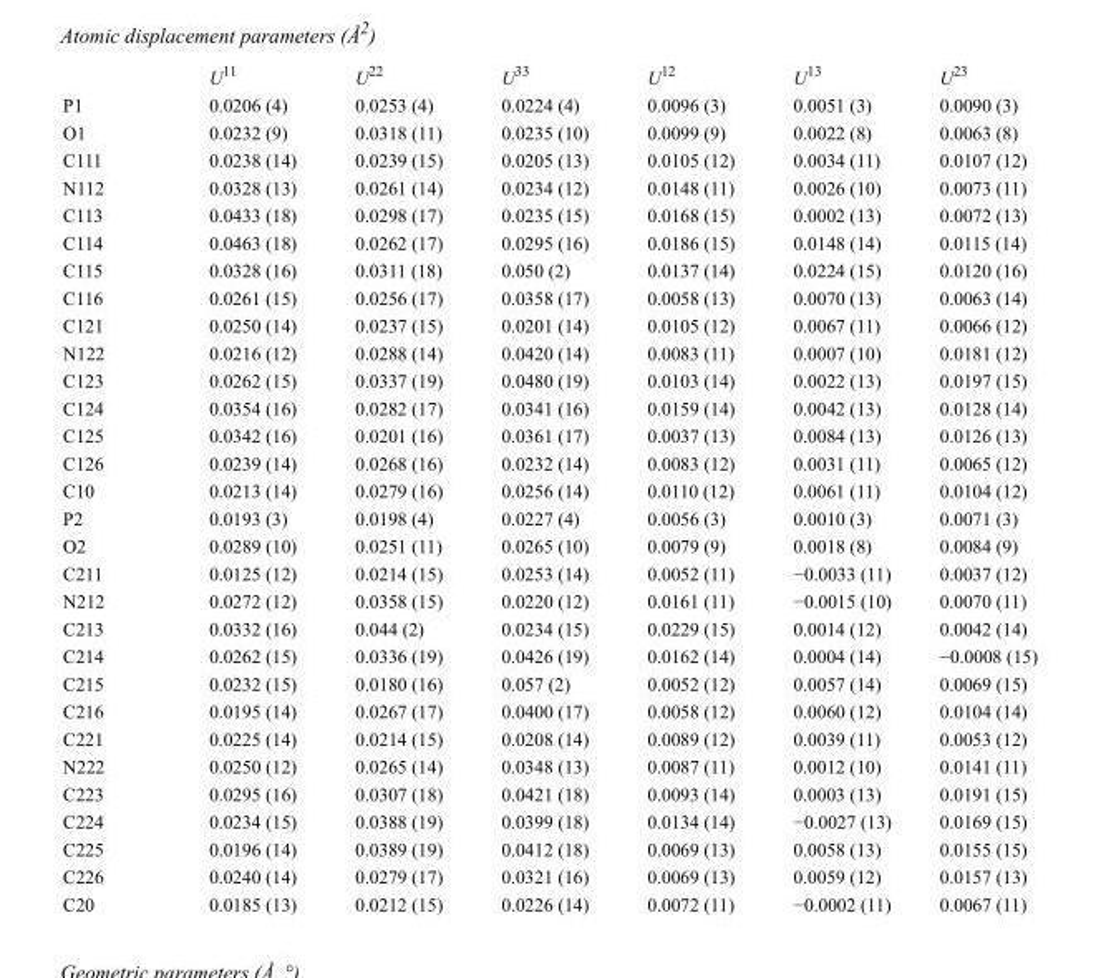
<table><thead><tr><td></td><td>U<sup>11</sup></td><td>U<sup>22</sup></td><td>U<sup>33</sup></td><td>U<sup>12</sup></td><td>U<sup>13</sup></td><td>U<sup>23</sup></td></tr></thead><tbody><tr><td>P1</td><td>0.0206 (4)</td><td>0.0253 (4)</td><td>0.0224 (4)</td><td>0.0096 (3)</td><td>0.0051 (3)</td><td>0.0090 (3)</td></tr><tr><td>O1</td><td>0.0232 (9)</td><td>0.0318 (11)</td><td>0.0235 (10)</td><td>0.0099 (9)</td><td>0.0022 (8)</td><td>0.0063 (8)</td></tr><tr><td>C111</td><td>0.0238 (14)</td><td>0.0239 (15)</td><td>0.0205 (13)</td><td>0.0105 (12)</td><td>0.0034 (11)</td><td>0.0107 (12)</td></tr><tr><td>N112</td><td>0.0328 (13)</td><td>0.0261 (14)</td><td>0.0234 (12)</td><td>0.0148 (11)</td><td>0.0026 (10)</td><td>0.0073 (11)</td></tr><tr><td>C113</td><td>0.0433 (18)</td><td>0.0298 (17)</td><td>0.0235 (15)</td><td>0.0168 (15)</td><td>0.0002 (13)</td><td>0.0072 (13)</td></tr><tr><td>C114</td><td>0.0463 (18)</td><td>0.0262 (17)</td><td>0.0295 (16)</td><td>0.0186 (15)</td><td>0.0148 (14)</td><td>0.0115 (14)</td></tr><tr><td>C115</td><td>0.0328 (16)</td><td>0.0311 (18)</td><td>0.050 (2)</td><td>0.0137 (14)</td><td>0.0224 (15)</td><td>0.0120 (16)</td></tr><tr><td>C116</td><td>0.0261 (15)</td><td>0.0256 (17)</td><td>0.0358 (17)</td><td>0.0058 (13)</td><td>0.0070 (13)</td><td>0.0063 (14)</td></tr><tr><td>C121</td><td>0.0250 (14)</td><td>0.0237 (15)</td><td>0.0201 (14)</td><td>0.0105 (12)</td><td>0.0067 (11)</td><td>0.0066 (12)</td></tr><tr><td>N122</td><td>0.0216 (12)</td><td>0.0288 (14)</td><td>0.0420 (14)</td><td>0.0083 (11)</td><td>0.0007 (10)</td><td>0.0181 (12)</td></tr><tr><td>C123</td><td>0.0262 (15)</td><td>0.0337 (19)</td><td>0.0480 (19)</td><td>0.0103 (14)</td><td>0.0022 (13)</td><td>0.0197 (15)</td></tr><tr><td>C124</td><td>0.0354 (16)</td><td>0.0282 (17)</td><td>0.0341 (16)</td><td>0.0159 (14)</td><td>0.0042 (13)</td><td>0.0128 (14)</td></tr><tr><td>C125</td><td>0.0342 (16)</td><td>0.0201 (16)</td><td>0.0361 (17)</td><td>0.0037 (13)</td><td>0.0084 (13)</td><td>0.0126 (13)</td></tr><tr><td>C126</td><td>0.0239 (14)</td><td>0.0268 (16)</td><td>0.0232 (14)</td><td>0.0083 (12)</td><td>0.0031 (11)</td><td>0.0065 (12)</td></tr><tr><td>C10</td><td>0.0213 (14)</td><td>0.0279 (16)</td><td>0.0256 (14)</td><td>0.0110 (12)</td><td>0.0061 (11)</td><td>0.0104 (12)</td></tr><tr><td>P2</td><td>0.0193 (3)</td><td>0.0198 (4)</td><td>0.0227 (4)</td><td>0.0056 (3)</td><td>0.0010 (3)</td><td>0.0071 (3)</td></tr><tr><td>O2</td><td>0.0289 (10)</td><td>0.0251 (11)</td><td>0.0265 (10)</td><td>0.0079 (9)</td><td>0.0018 (8)</td><td>0.0084 (9)</td></tr><tr><td>C211</td><td>0.0125 (12)</td><td>0.0214 (15)</td><td>0.0253 (14)</td><td>0.0052 (11)</td><td>−0.0033 (11)</td><td>0.0037 (12)</td></tr><tr><td>N212</td><td>0.0272 (12)</td><td>0.0358 (15)</td><td>0.0220 (12)</td><td>0.0161 (11)</td><td>−0.0015 (10)</td><td>0.0070 (11)</td></tr><tr><td>C213</td><td>0.0332 (16)</td><td>0.044 (2)</td><td>0.0234 (15)</td><td>0.0229 (15)</td><td>0.0014 (12)</td><td>0.0042 (14)</td></tr><tr><td>C214</td><td>0.0262 (15)</td><td>0.0336 (19)</td><td>0.0426 (19)</td><td>0.0162 (14)</td><td>0.0004 (14)</td><td>−0.0008 (15)</td></tr><tr><td>C215</td><td>0.0232 (15)</td><td>0.0180 (16)</td><td>0.057 (2)</td><td>0.0052 (12)</td><td>0.0057 (14)</td><td>0.0069 (15)</td></tr><tr><td>C216</td><td>0.0195 (14)</td><td>0.0267 (17)</td><td>0.0400 (17)</td><td>0.0058 (12)</td><td>0.0060 (12)</td><td>0.0104 (14)</td></tr><tr><td>C221</td><td>0.0225 (14)</td><td>0.0214 (15)</td><td>0.0208 (14)</td><td>0.0089 (12)</td><td>0.0039 (11)</td><td>0.0053 (12)</td></tr><tr><td>N222</td><td>0.0250 (12)</td><td>0.0265 (14)</td><td>0.0348 (13)</td><td>0.0087 (11)</td><td>0.0012 (10)</td><td>0.0141 (11)</td></tr><tr><td>C223</td><td>0.0295 (16)</td><td>0.0307 (18)</td><td>0.0421 (18)</td><td>0.0093 (14)</td><td>0.0003 (13)</td><td>0.0191 (15)</td></tr><tr><td>C224</td><td>0.0234 (15)</td><td>0.0388 (19)</td><td>0.0399 (18)</td><td>0.0134 (14)</td><td>−0.0027 (13)</td><td>0.0169 (15)</td></tr><tr><td>C225</td><td>0.0196 (14)</td><td>0.0389 (19)</td><td>0.0412 (18)</td><td>0.0069 (13)</td><td>0.0058 (13)</td><td>0.0155 (15)</td></tr><tr><td>C226</td><td>0.0240 (14)</td><td>0.0279 (17)</td><td>0.0321 (16)</td><td>0.0069 (13)</td><td>0.0059 (12)</td><td>0.0157 (13)</td></tr><tr><td>C20</td><td>0.0185 (13)</td><td>0.0212 (15)</td><td>0.0226 (14)</td><td>0.0072 (11)</td><td>−0.0002 (11)</td><td>0.0067 (11)</td></tr></tbody></table>